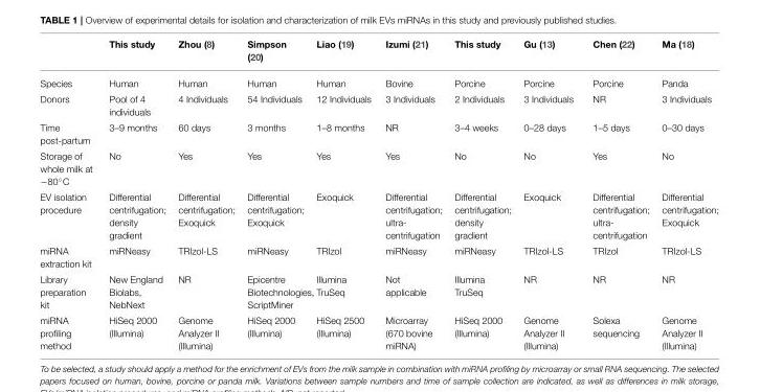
<table><thead><tr><td></td><td>This study</td><td>Zhou (8)</td><td>Simpson (20)</td><td>Liao (19)</td><td>Izumi (21)</td><td>This study</td><td>Gu (13)</td><td>Chen (22)</td><td>Ma (18)</td></tr></thead><tbody><tr><td>Species</td><td>Human</td><td>Human</td><td>Human</td><td>Human</td><td>Bovine</td><td>Porcine</td><td>Porcine</td><td>Porcine</td><td>Panda</td></tr><tr><td>Donors</td><td>Pool of 4 individuals</td><td>4 Individuals</td><td>54 Individuals</td><td>12 Individuals</td><td>3 Individuals</td><td>2 Individuals</td><td>3 Individuals</td><td>NR</td><td>3 Individuals</td></tr><tr><td>Time post-partum</td><td>3–9 months</td><td>60 days</td><td>3 months</td><td>1–8 months</td><td>NR</td><td>3–4 weeks</td><td>0–28 days</td><td>1–5 days</td><td>0–30 days</td></tr><tr><td>Storage of whole milk at −80◦C</td><td>No</td><td>Yes</td><td>Yes</td><td>Yes</td><td>Yes</td><td>No</td><td>No</td><td>Yes</td><td>No</td></tr><tr><td>EV isolation procedure</td><td>Differential centrifugation; density gradient</td><td>Differential centrifugation; Exoquick</td><td>Differential centrifugation; Exoquick</td><td>Exoquick</td><td>Differential centrifugation; ultra- centrifugation</td><td>Differential centrifugation; density gradient</td><td>Exoquick</td><td>Differential centrifugation; ultra- centrifugation</td><td>Differential centrifugation; Exoquick</td></tr><tr><td>miRNA extraction kit</td><td>miRNeasy</td><td>TRIzol-LS</td><td>miRNeasy</td><td>TRIzol</td><td>miRNeasy</td><td>miRNeasy</td><td>TRIzol-LS</td><td>TRIzol</td><td>TRIzol-LS</td></tr><tr><td>Library preparation kit</td><td>New England Biolabs, NebNext</td><td>NR</td><td>Epicentre Biotechnologies, ScriptMiner</td><td>Illumina TruSeq</td><td>Not applicable</td><td>Illumina TruSeq</td><td>NR</td><td>NR</td><td>NR</td></tr><tr><td>miRNA profiling method</td><td>HiSeq 2000 (Illumina)</td><td>Genome Analyzer II (Illumina)</td><td>HiSeq 2000 (Illumina)</td><td>HiSeq 2500 (Illumina)</td><td>Microarray (670 bovine miRNA)</td><td>HiSeq 2000 (Illumina)</td><td>Genome Analyzer II (Illumina)</td><td>Solexa sequencing</td><td>Genome Analyzer II (Illumina)</td></tr></tbody></table>